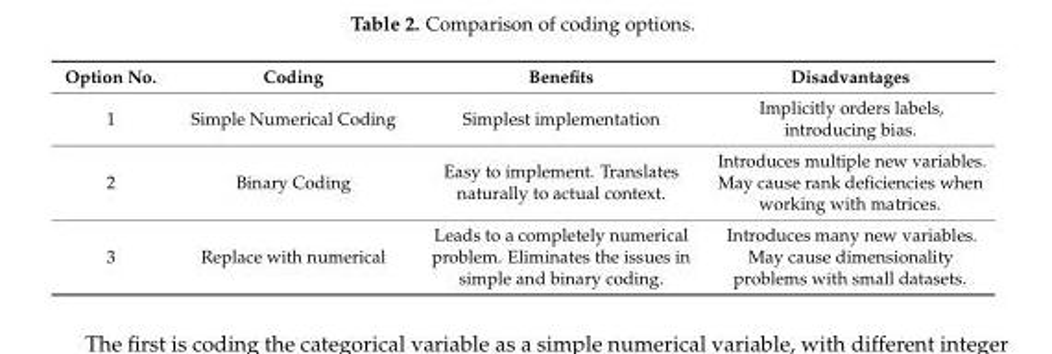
<table><thead><tr><td>Option No.</td><td>Coding</td><td>Benefits</td><td>Disadvantages</td></tr></thead><tbody><tr><td>1</td><td>Simple Numerical Coding</td><td>Simplest implementation</td><td>Implicitly orders labels, introducing bias.</td></tr><tr><td>2</td><td>Binary Coding</td><td>Easy to implement. Translates naturally to actual context.</td><td>Introduces multiple new variables. May cause rank deficiencies when working with matrices.</td></tr><tr><td>3</td><td>Replace with numerical</td><td>Leads to a completely numerical problem. Eliminates the issues in simple and binary coding.</td><td>Introduces many new variables. May cause dimensionality problems with small datasets.</td></tr></tbody></table>